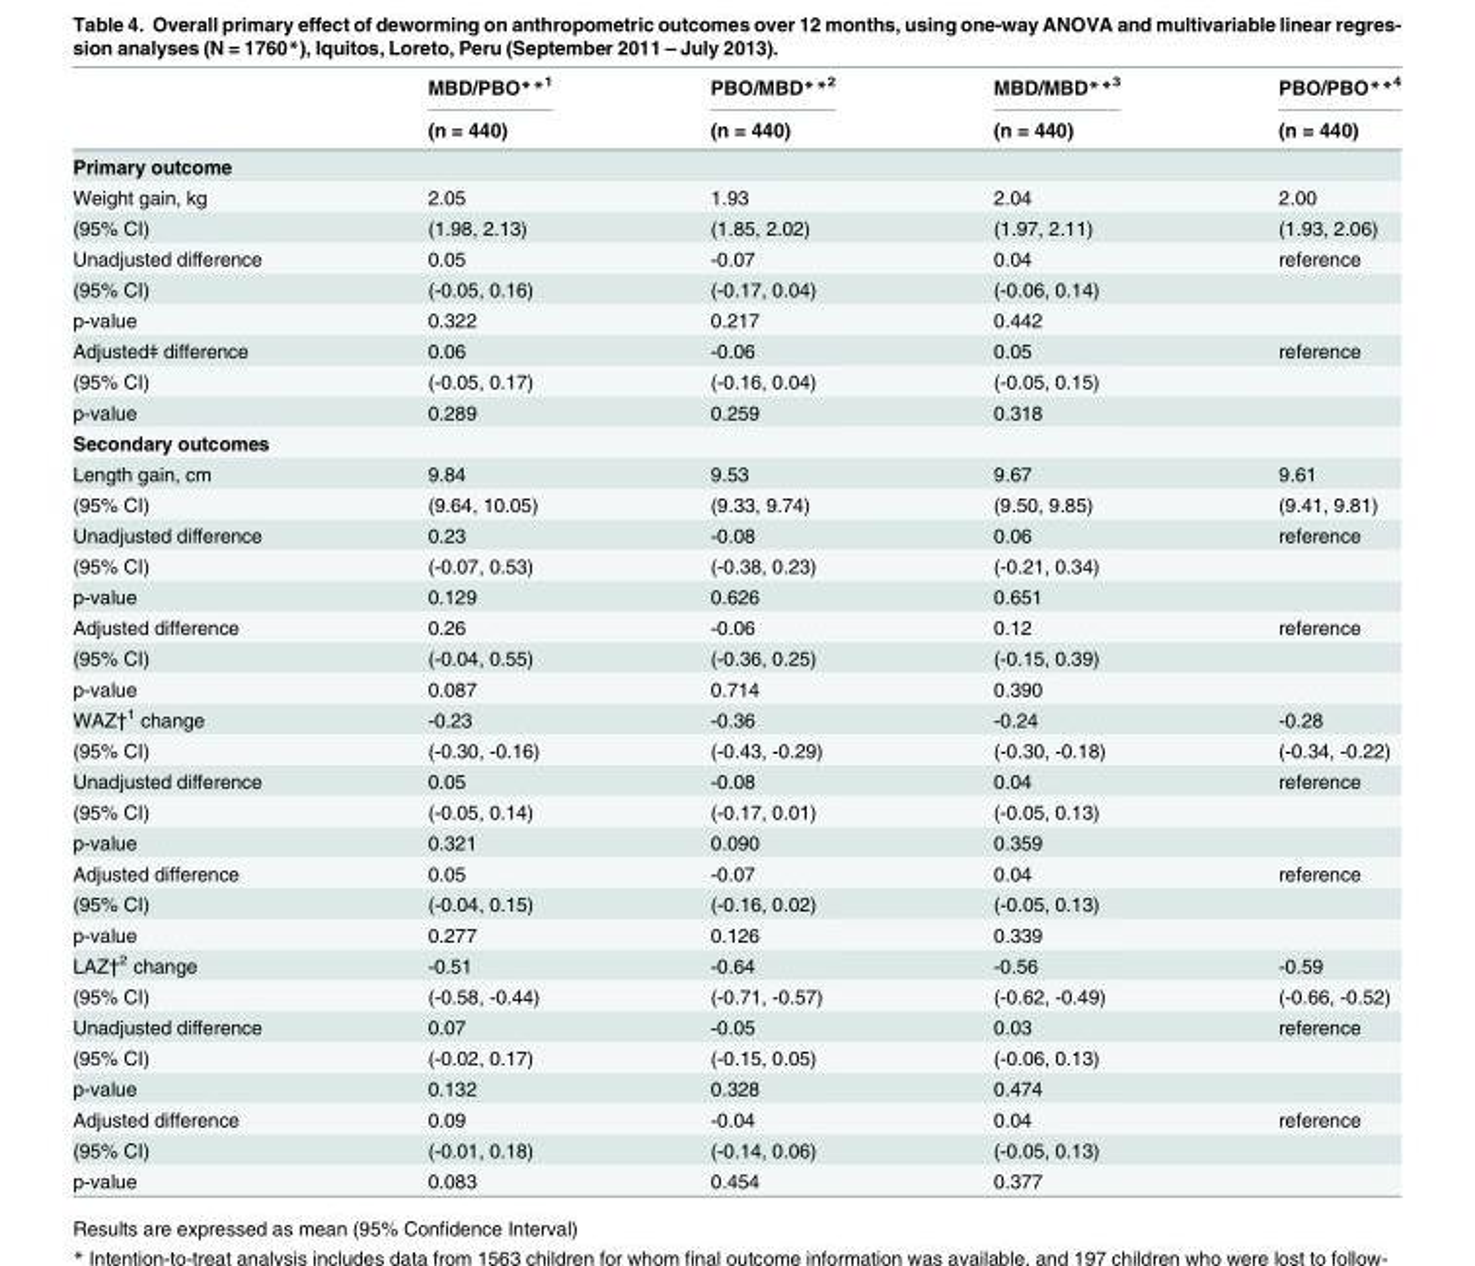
<table><thead><tr><td rowspan="2"></td><td rowspan="2">MBD/PBO**<sup>1</sup> (n = 440)</td><td rowspan="2">PBO/MBD**<sup>2</sup> (n = 440)</td><td rowspan="2">MBD/MBD**<sup>3</sup> (n = 440)</td><td rowspan="2">PBO/PBO**<sup>4</sup> (n = 440)</td></tr><tr></tr></thead><tbody><tr><td colspan="5">Primary outcome</td></tr><tr><td>Weight gain, kg</td><td>2.05</td><td>1.93</td><td>2.04</td><td>2.00</td></tr><tr><td>(95% CI)</td><td>(1.98, 2.13)</td><td>(1.85, 2.02)</td><td>(1.97, 2.11)</td><td>(1.93, 2.06)</td></tr><tr><td>Unadjusted difference</td><td>0.05</td><td>-0.07</td><td>0.04</td><td>reference</td></tr><tr><td>(95% CI)</td><td>(-0.05, 0.16)</td><td>(-0.17, 0.04)</td><td>(-0.06, 0.14)</td><td></td></tr><tr><td>p-value</td><td>0.322</td><td>0.217</td><td>0.442</td><td></td></tr><tr><td>Adjustedǂ difference</td><td>0.06</td><td>-0.06</td><td>0.05</td><td>reference</td></tr><tr><td>(95% CI)</td><td>(-0.05, 0.17)</td><td>(-0.16, 0.04)</td><td>(-0.05, 0.15)</td><td></td></tr><tr><td>p-value</td><td>0.289</td><td>0.259</td><td>0.318</td><td></td></tr><tr><td colspan="5">Secondary outcomes</td></tr><tr><td>Length gain, cm</td><td>9.84</td><td>9.53</td><td>9.67</td><td>9.61</td></tr><tr><td>(95% CI)</td><td>(9.64, 10.05)</td><td>(9.33, 9.74)</td><td>(9.50, 9.85)</td><td>(9.41, 9.81)</td></tr><tr><td>Unadjusted difference</td><td>0.23</td><td>-0.08</td><td>0.06</td><td>reference</td></tr><tr><td>(95% CI)</td><td>(-0.07, 0.53)</td><td>(-0.38, 0.23)</td><td>(-0.21, 0.34)</td><td></td></tr><tr><td>p-value</td><td>0.129</td><td>0.626</td><td>0.651</td><td></td></tr><tr><td>Adjusted difference</td><td>0.26</td><td>-0.06</td><td>0.12</td><td>reference</td></tr><tr><td>(95% CI)</td><td>(-0.04, 0.55)</td><td>(-0.36, 0.25)</td><td>(-0.15, 0.39)</td><td></td></tr><tr><td>p-value</td><td>0.087</td><td>0.714</td><td>0.390</td><td></td></tr><tr><td>WAZ†<sup>1</sup> change</td><td>-0.23</td><td>-0.36</td><td>-0.24</td><td>-0.28</td></tr><tr><td>(95% CI)</td><td>(-0.30, -0.16)</td><td>(-0.43, -0.29)</td><td>(-0.30, -0.18)</td><td>(-0.34, -0.22)</td></tr><tr><td>Unadjusted difference</td><td>0.05</td><td>-0.08</td><td>0.04</td><td>reference</td></tr><tr><td>(95% CI)</td><td>(-0.05, 0.14)</td><td>(-0.17, 0.01)</td><td>(-0.05, 0.13)</td><td></td></tr><tr><td>p-value</td><td>0.321</td><td>0.090</td><td>0.359</td><td></td></tr><tr><td>Adjusted difference</td><td>0.05</td><td>-0.07</td><td>0.04</td><td>reference</td></tr><tr><td>(95% CI)</td><td>(-0.04, 0.15)</td><td>(-0.16, 0.02)</td><td>(-0.05, 0.13)</td><td></td></tr><tr><td>p-value</td><td>0.277</td><td>0.126</td><td>0.339</td><td></td></tr><tr><td>LAZ†<sup>2</sup> change</td><td>-0.51</td><td>-0.64</td><td>-0.56</td><td>-0.59</td></tr><tr><td>(95% CI)</td><td>(-0.58, -0.44)</td><td>(-0.71, -0.57)</td><td>(-0.62, -0.49)</td><td>(-0.66, -0.52)</td></tr><tr><td>Unadjusted difference</td><td>0.07</td><td>-0.05</td><td>0.03</td><td>reference</td></tr><tr><td>(95% CI)</td><td>(-0.02, 0.17)</td><td>(-0.15, 0.05)</td><td>(-0.06, 0.13)</td><td></td></tr><tr><td>p-value</td><td>0.132</td><td>0.328</td><td>0.474</td><td></td></tr><tr><td>Adjusted difference</td><td>0.09</td><td>-0.04</td><td>0.04</td><td>reference</td></tr><tr><td>(95% CI)</td><td>(-0.01, 0.18)</td><td>(-0.14, 0.06)</td><td>(-0.05, 0.13)</td><td></td></tr><tr><td>p-value</td><td>0.083</td><td>0.454</td><td>0.377</td><td></td></tr></tbody></table>